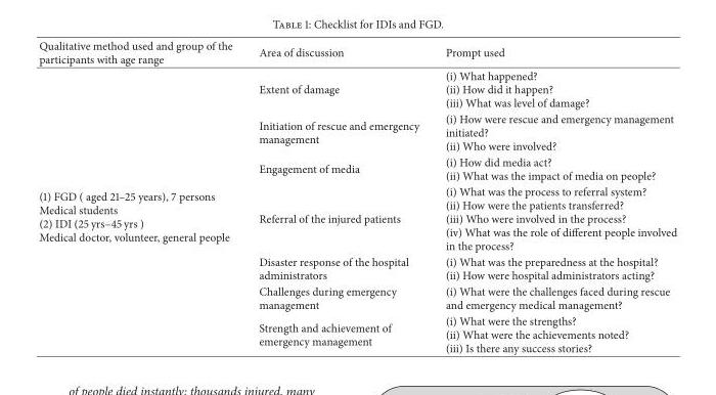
<table><thead><tr><td>Qualitative method used and group of the participants with age range</td><td>Area of discussion</td><td>Prompt used</td></tr></thead><tbody><tr><td rowspan="7">(1) FGD ( aged 21–25 years), 7 persons Medical students (2) IDI (25 yrs–45 yrs ) Medical doctor, volunteer, general people</td><td>Extent of damage</td><td>(i) What happened? (ii) How did it happen? (iii) What was level of damage?</td></tr><tr><td>Initiation of rescue and emergency management</td><td>(i) How were rescue and emergency management initiated? (ii) Who were involved?</td></tr><tr><td>Engagement of media</td><td>(i) How did media act? (ii) What was the impact of media on people?</td></tr><tr><td>Referral of the injured patients</td><td>(i) What was the process to referral system? (ii) How were the patients transferred? (iii) Who were involved in the process? (iv) What was the role of different people involved in the process?</td></tr><tr><td>Disaster response of the hospital administrators</td><td>(i) What was the preparedness at the hospital? (ii) How were hospital administrators acting?</td></tr><tr><td>Challenges during emergency management</td><td>(i) What were the challenges faced during rescue and emergency medical management?</td></tr><tr><td>Strength and achievement of emergency management</td><td>(i) What were the strengths? (ii) What were the achievements noted? (iii) Is there any success stories?</td></tr></tbody></table>